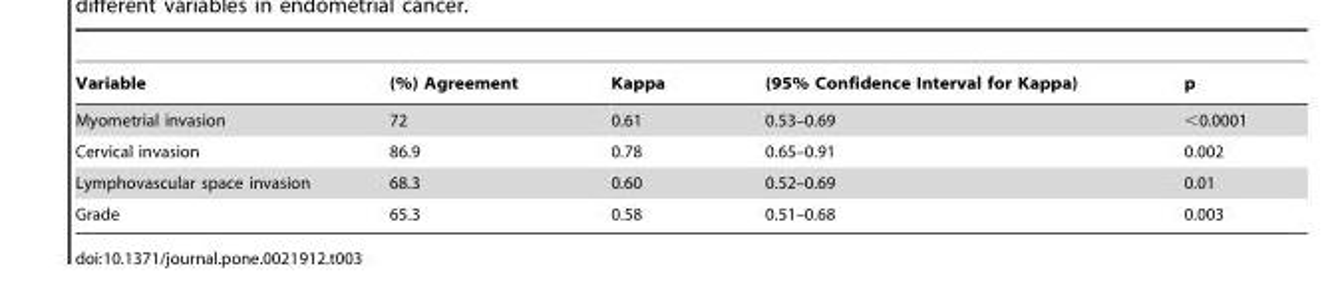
<table><thead><tr><td>Variable</td><td>(%) Agreement</td><td>Kappa</td><td>(95% Confidence Interval for Kappa)</td><td>p</td></tr></thead><tbody><tr><td>Myometrial invasion</td><td>72</td><td>0.61</td><td>0.53–0.69</td><td>&lt;0.0001</td></tr><tr><td>Cervical invasion</td><td>86.9</td><td>0.78</td><td>0.65–0.91</td><td>0.002</td></tr><tr><td>Lymphovascular space invasion</td><td>68.3</td><td>0.60</td><td>0.52–0.69</td><td>0.01</td></tr><tr><td>Grade</td><td>65.3</td><td>0.58</td><td>0.51–0.68</td><td>0.003</td></tr></tbody></table>